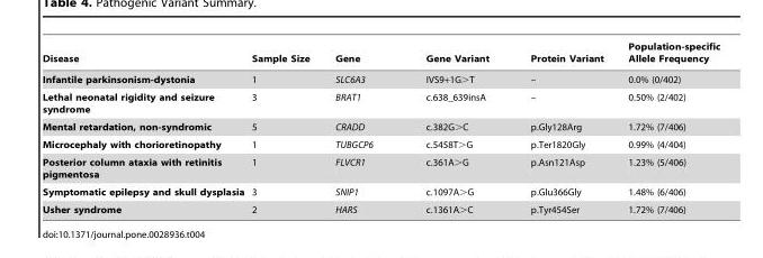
<table><thead><tr><td>Disease</td><td>Sample Size</td><td>Gene</td><td>Gene Variant</td><td>Protein Variant</td><td>Population-specific Allele Frequency</td></tr></thead><tbody><tr><td>Infantile parkinsonism-dystonia</td><td>1</td><td>SLC6A3</td><td>IVS9+1G&gt;T</td><td>–</td><td>0.0% (0/402)</td></tr><tr><td>Lethal neonatal rigidity and seizure syndrome</td><td>3</td><td>BRAT1</td><td>c.638_639insA</td><td>–</td><td>0.50% (2/402)</td></tr><tr><td>Mental retardation, non-syndromic</td><td>5</td><td>CRADD</td><td>c.382G&gt;C</td><td>p.Gly128Arg</td><td>1.72% (7/406)</td></tr><tr><td>Microcephaly with chorioretinopathy</td><td>1</td><td>TUBGCP6</td><td>c.5458T&gt;G</td><td>p.Ter1820Gly</td><td>0.99% (4/404)</td></tr><tr><td>Posterior column ataxia with retinitis pigmentosa</td><td>1</td><td>FLVCR1</td><td>c.361A&gt;G</td><td>p.Asn121Asp</td><td>1.23% (5/406)</td></tr><tr><td>Symptomatic epilepsy and skull dysplasia</td><td>3</td><td>SNIP1</td><td>c.1097A&gt;G</td><td>p.Glu366Gly</td><td>1.48% (6/406)</td></tr><tr><td>Usher syndrome</td><td>2</td><td>HARS</td><td>c.1361A&gt;C</td><td>p.Tyr454Ser</td><td>1.72% (7/406)</td></tr></tbody></table>